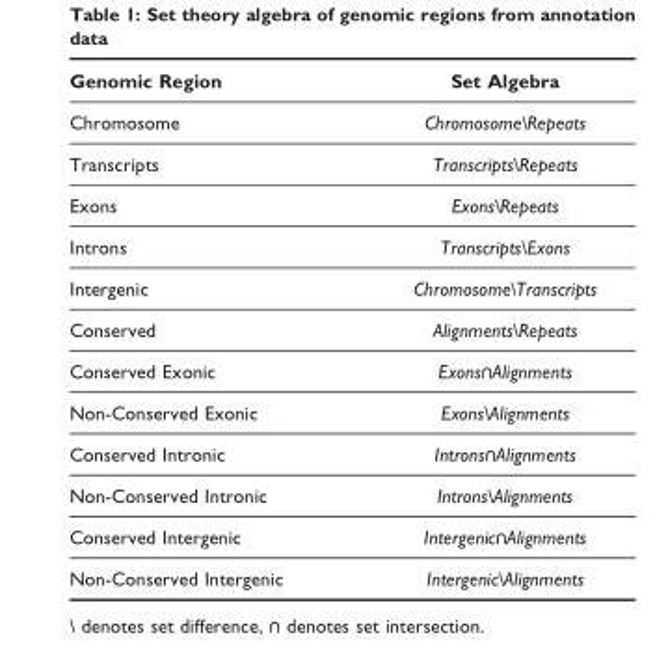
<table><thead><tr><td>Genomic Region</td><td>Set Algebra</td></tr></thead><tbody><tr><td>Chromosome</td><td>Chromosome\Repeats</td></tr><tr><td>Transcripts</td><td>Transcripts\Repeats</td></tr><tr><td>Exons</td><td>Exons\Repeats</td></tr><tr><td>Introns</td><td>Transcripts\Exons</td></tr><tr><td>Intergenic</td><td>Chromosome\Transcripts</td></tr><tr><td>Conserved</td><td>Alignments\Repeats</td></tr><tr><td>Conserved Exonic</td><td>Exons∩Alignments</td></tr><tr><td>Non-Conserved Exonic</td><td>Exons\Alignments</td></tr><tr><td>Conserved Intronic</td><td>Introns∩Alignments</td></tr><tr><td>Non-Conserved Intronic</td><td>Introns\Alignments</td></tr><tr><td>Conserved Intergenic</td><td>Intergenic∩Alignments</td></tr><tr><td>Non-Conserved Intergenic</td><td>Intergenic\Alignments</td></tr></tbody></table>